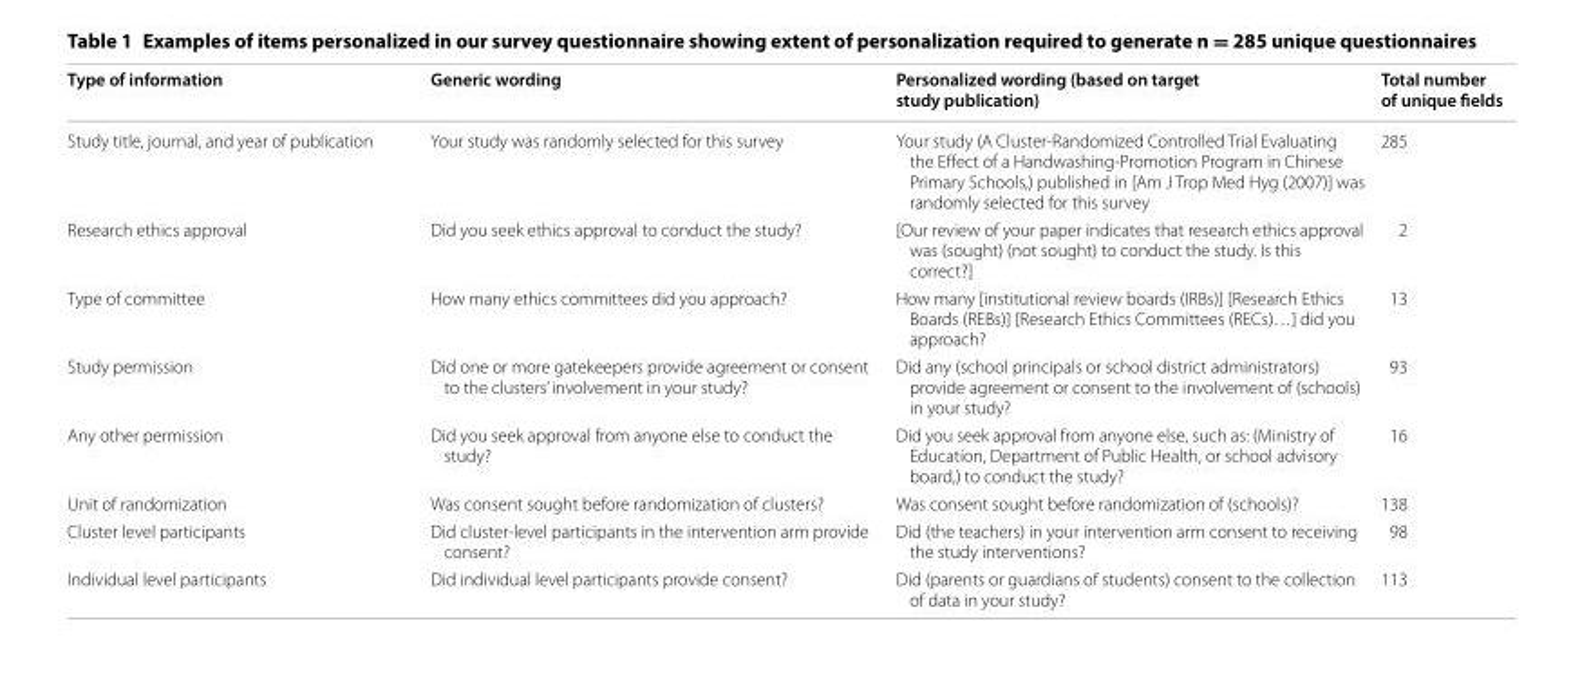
<table><thead><tr><td>Type of information</td><td>Generic wording</td><td>Personalized wording (based on target study publication)</td><td>Total number of unique fields</td></tr></thead><tbody><tr><td>Study title, journal, and year of publication</td><td>Your study was randomly selected for this survey</td><td>Your study (A Cluster-Randomized Controlled Trial Evaluating the Effect of a Handwashing-Promotion Program in Chinese Primary Schools,) published in [Am J Trop Med Hyg (2007)] was randomly selected for this survey</td><td>285</td></tr><tr><td>Research ethics approval</td><td>Did you seek ethics approval to conduct the study?</td><td>[Our review of your paper indicates that research ethics approval was (sought) (not sought) to conduct the study. Is this correct?]</td><td>2</td></tr><tr><td>Type of committee</td><td>How many ethics committees did you approach?</td><td>How many [institutional review boards (IRBs)] [Research Ethics Boards (REBs)] [Research Ethics Committees (RECs)…] did you approach?</td><td>13</td></tr><tr><td>Study permission</td><td>Did one or more gatekeepers provide agreement or consent to the clusters’ involvement in your study?</td><td>Did any (school principals or school district administrators) provide agreement or consent to the involvement of (schools) in your study?</td><td>93</td></tr><tr><td>Any other permission</td><td>Did you seek approval from anyone else to conduct the study?</td><td>Did you seek approval from anyone else, such as: (Ministry of Education, Department of Public Health, or school advisory board,) to conduct the study?</td><td>16</td></tr><tr><td>Unit of randomization</td><td>Was consent sought before randomization of clusters?</td><td>Was consent sought before randomization of (schools)?</td><td>138</td></tr><tr><td>Cluster level participants</td><td>Did cluster-level participants in the intervention arm provide consent?</td><td>Did (the teachers) in your intervention arm consent to receiving the study interventions?</td><td>98</td></tr><tr><td>Individual level participants</td><td>Did individual level participants provide consent?</td><td>Did (parents or guardians of students) consent to the collection of data in your study?</td><td>113</td></tr></tbody></table>